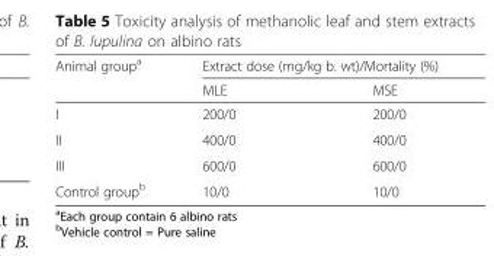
<table><thead><tr><td rowspan="2">Animal group<sup>a</sup></td><td colspan="2">Extract dose (mg/kg b. wt)/Mortality (%)</td></tr><tr><td>MLE</td><td>MSE</td></tr></thead><tbody><tr><td>I</td><td>200/0</td><td>200/0</td></tr><tr><td>II</td><td>400/0</td><td>400/0</td></tr><tr><td>III</td><td>600/0</td><td>600/0</td></tr><tr><td>Control group<sup>b</sup></td><td>10/0</td><td>10/0</td></tr></tbody></table>